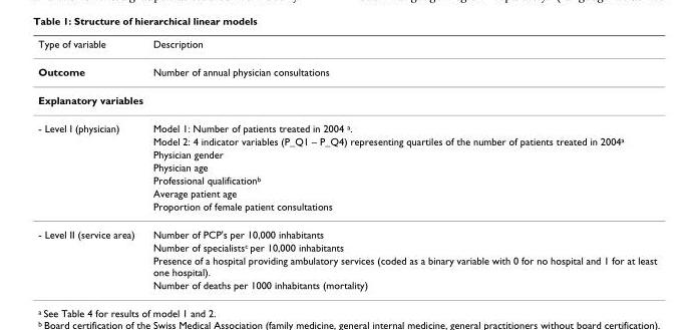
<table><thead><tr><td>Type of variable</td><td>Description</td></tr></thead><tbody><tr><td>Outcome</td><td>Number of annual physician consultations</td></tr><tr><td colspan="2">Explanatory variables</td></tr><tr><td rowspan="7">- Level I (physician)</td><td>Model 1: Number of patients treated in 2004 <sup>a</sup>.</td></tr><tr><td>Model 2: 4 indicator variables (P_Q1 – P_Q4) representing quartiles of the number of patients treated in 2004<sup>a</sup></td></tr><tr><td>Physician gender</td></tr><tr><td>Physician age</td></tr><tr><td>Professional qualification<sup>b</sup></td></tr><tr><td>Average patient age</td></tr><tr><td>Proportion of female patient consultations</td></tr><tr><td rowspan="4">- Level II (service area)</td><td>Number of PCP&#x27;s per 10,000 inhabitants</td></tr><tr><td>Number of specialists<sup>c</sup> per 10,000 inhabitants</td></tr><tr><td>Presence of a hospital providing ambulatory services (coded as a binary variable with 0 for no hospital and 1 for at least one hospital).</td></tr><tr><td>Number of deaths per 1000 inhabitants (mortality)</td></tr></tbody></table>